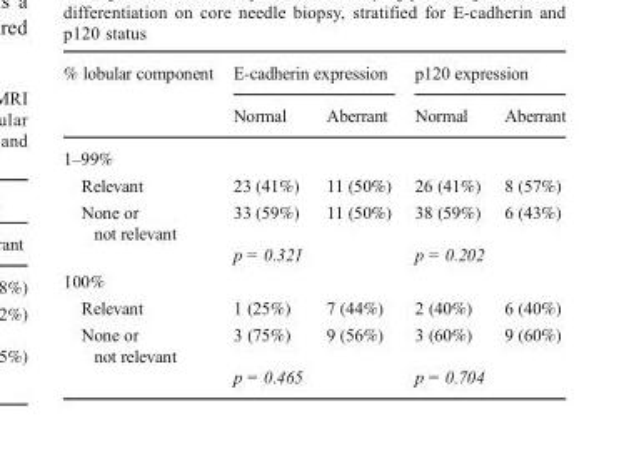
<table><thead><tr><td rowspan="2">% lobular component</td><td colspan="2">E-cadherin expression</td><td colspan="2">p120 expression</td></tr><tr><td>Normal</td><td>Aberrant</td><td>Normal</td><td>Aberrant</td></tr></thead><tbody><tr><td colspan="5">1–99%</td></tr><tr><td>Relevant</td><td>23 (41%)</td><td>11 (50%)</td><td>26 (41%)</td><td>8 (57%)</td></tr><tr><td rowspan="2">None or not relevant</td><td>33 (59%)</td><td>11 (50%)</td><td>38 (59%)</td><td>6 (43%)</td></tr><tr><td>p = 0.321</td><td></td><td>p = 0.202</td><td></td></tr><tr><td colspan="5">100%</td></tr><tr><td>Relevant</td><td>1 (25%)</td><td>7 (44%)</td><td>2 (40%)</td><td>6 (40%)</td></tr><tr><td rowspan="2">None or not relevant</td><td>3 (75%)</td><td>9 (56%)</td><td>3 (60%)</td><td>9 (60%)</td></tr><tr><td>p = 0.465</td><td></td><td>p = 0.704</td><td></td></tr></tbody></table>